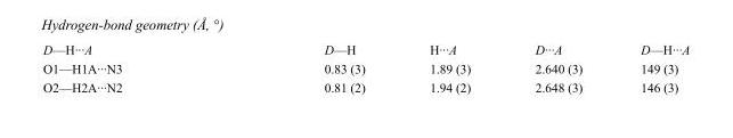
<table><tbody><tr><td>D—H···A</td><td>D—H</td><td>H···A</td><td>D···A</td><td>D—H···A</td></tr><tr><td>O1—H1A···N3</td><td>0.83 (3)</td><td>1.89 (3)</td><td>2.640 (3)</td><td>149 (3)</td></tr><tr><td>O2—H2A···N2</td><td>0.81 (2)</td><td>1.94 (2)</td><td>2.648 (3)</td><td>146 (3)</td></tr></tbody></table>